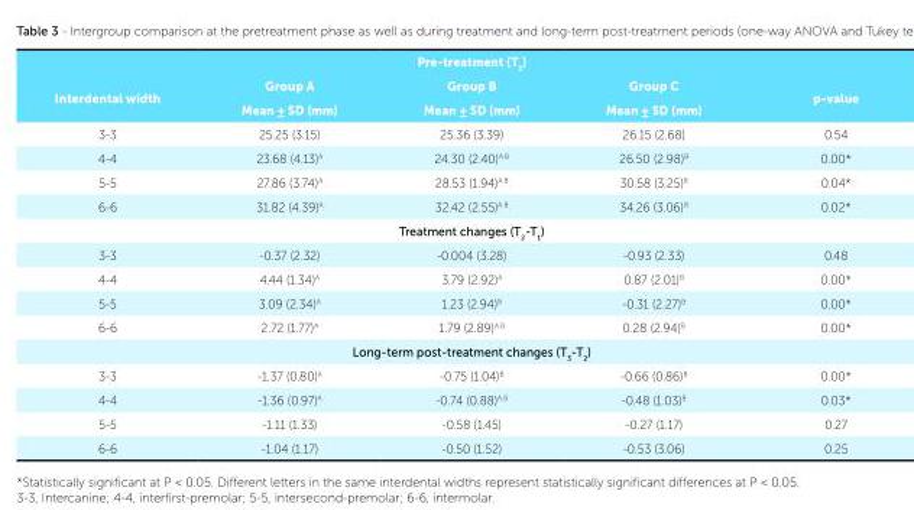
<table><thead><tr><td colspan="5">Pre-treatment (T<sub>1</sub>)</td></tr><tr><td rowspan="2">Interdental width</td><td rowspan="2">Group A Mean ± SD (mm)</td><td rowspan="2">Group B Mean ± SD (mm)</td><td rowspan="2">Group C Mean ± SD (mm)</td><td rowspan="2">p-value</td></tr><tr></tr></thead><tbody><tr><td>3-3</td><td>25.25 (3.15)</td><td>25.36 (3.39)</td><td>26.15 (2.68)</td><td>0.54</td></tr><tr><td>4-4</td><td>23.68 (4.13)<sup>A</sup></td><td>24.30 (2.40)<sup>A.B</sup></td><td>26.50 (2.98)<sup>B</sup></td><td>0.00*</td></tr><tr><td>5-5</td><td>27.86 (3.74)<sup>A</sup></td><td>28.53 (1.94)<sup>A.B</sup></td><td>30.58 (3.25)<sup>B</sup></td><td>0.04*</td></tr><tr><td>6-6</td><td>31.82 (4.39)<sup>A</sup></td><td>32.42 (2.55)<sup>A.B</sup></td><td>34.26 (3.06)<sup>B</sup></td><td>0.02*</td></tr><tr><td colspan="5">Treatment changes (T<sub>2</sub>-T<sub>1</sub>)</td></tr><tr><td>3-3</td><td>-0.37 (2.32)</td><td>-0.004 (3.28)</td><td>-0.93 (2.33)</td><td>0.48</td></tr><tr><td>4-4</td><td>4.44 (1.34)<sup>A</sup></td><td>3.79 (2.92)<sup>A</sup></td><td>0.87 (2.01)<sup>B</sup></td><td>0.00*</td></tr><tr><td>5-5</td><td>3.09 (2.34)<sup>A</sup></td><td>1.23 (2.94)<sup>B</sup></td><td>-0.31 (2.27)<sup>B</sup></td><td>0.00*</td></tr><tr><td>6-6</td><td>2.72 (1.77)<sup>A</sup></td><td>1.79 (2.89)<sup>A.B</sup></td><td>0.28 (2.94)<sup>B</sup></td><td>0.00*</td></tr><tr><td colspan="5">Long-term post-treatment changes (T<sub>3</sub>-T<sub>2</sub>)</td></tr><tr><td>3-3</td><td>-1.37 (0.80)<sup>A</sup></td><td>-0.75 (1.04)<sup>B</sup></td><td>-0.66 (0.86)<sup>B</sup></td><td>0.00*</td></tr><tr><td>4-4</td><td>-1.36 (0.97)<sup>A</sup></td><td>-0.74 (0.88)<sup>A.B</sup></td><td>-0.48 (1.03)<sup>B</sup></td><td>0.03*</td></tr><tr><td>5-5</td><td>-1.11 (1.33)</td><td>-0.58 (1.45)</td><td>-0.27 (1.17)</td><td>0.27</td></tr><tr><td>6-6</td><td>-1.04 (1.17)</td><td>-0.50 (1.52)</td><td>-0.53 (3.06)</td><td>0.25</td></tr></tbody></table>